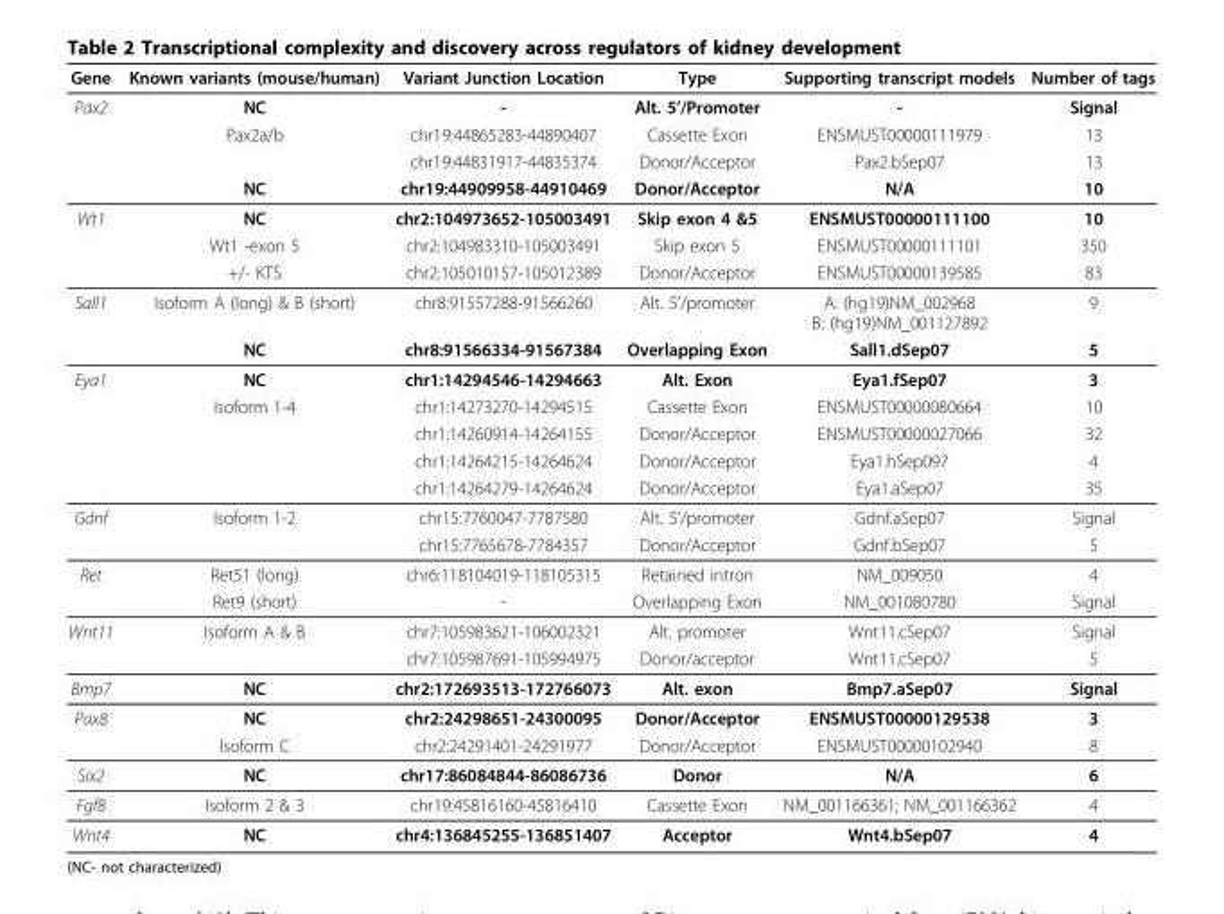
<table><thead><tr><td>Gene</td><td>Known variants (mouse/human)</td><td>Variant Junction Location</td><td>Type</td><td>Supporting transcript models</td><td>Number of tags</td></tr></thead><tbody><tr><td rowspan="4">Pax2</td><td>NC</td><td>-</td><td>Alt. 5’/Promoter</td><td>-</td><td>Signal</td></tr><tr><td>Pax2a/b</td><td>chr19:44865283-44890407</td><td>Cassette Exon</td><td>ENSMUST00000111979</td><td>13</td></tr><tr><td></td><td>chr19:44831917-44835374</td><td>Donor/Acceptor</td><td>Pax2.bSep07</td><td>13</td></tr><tr><td>NC</td><td>chr19:44909958-44910469</td><td>Donor/Acceptor</td><td>N/A</td><td>10</td></tr><tr><td rowspan="3">Wt1</td><td>NC</td><td>chr2:104973652-105003491</td><td>Skip exon 4 &amp;5</td><td>ENSMUST00000111100</td><td>10</td></tr><tr><td>Wt1 -exon 5</td><td>chr2:104983310-105003491</td><td>Skip exon 5</td><td>ENSMUST00000111101</td><td>350</td></tr><tr><td>+/- KTS</td><td>chr2:105010157-105012389</td><td>Donor/Acceptor</td><td>ENSMUST00000139585</td><td>83</td></tr><tr><td rowspan="2">Sall1</td><td>Isoform A (long) &amp; B (short)</td><td>chr8:91557288-91566260</td><td>Alt. 5’/promoter</td><td>A: (hg19)NM_002968 B: (hg19)NM_001127892</td><td>9</td></tr><tr><td>NC</td><td>chr8:91566334-91567384</td><td>Overlapping Exon</td><td>Sall1.dSep07</td><td>5</td></tr><tr><td rowspan="5">Eya1</td><td>NC</td><td>chr1:14294546-14294663</td><td>Alt. Exon</td><td>Eya1.fSep07</td><td>3</td></tr><tr><td>Isoform 1-4</td><td>chr1:14273270-14294515</td><td>Cassette Exon</td><td>ENSMUST00000080664</td><td>10</td></tr><tr><td></td><td>chr1:14260914-14264155</td><td>Donor/Acceptor</td><td>ENSMUST00000027066</td><td>32</td></tr><tr><td></td><td>chr1:14264215-14264624</td><td>Donor/Acceptor</td><td>Eya1.hSep097</td><td>4</td></tr><tr><td></td><td>chr1:14264279-14264624</td><td>Donor/Acceptor</td><td>Eya1.aSep07</td><td>35</td></tr><tr><td rowspan="2">Gdnf</td><td>Isoform 1-2</td><td>chr15:7760047-7787580</td><td>Alt. 5’/promoter</td><td>Gdnf.aSep07</td><td>Signal</td></tr><tr><td></td><td>chr15:7765678-7784357</td><td>Donor/Acceptor</td><td>Gdnf.bSep07</td><td>5</td></tr><tr><td rowspan="2">Ret</td><td>Ret51 (long)</td><td>chr6:118104019-118105315</td><td>Retained intron</td><td>NM_009050</td><td>4</td></tr><tr><td>Ret9 (short)</td><td>-</td><td>Overlapping Exon</td><td>NM_001080780</td><td>Signal</td></tr><tr><td rowspan="2">Wnt11</td><td>Isoform A &amp; B</td><td>chr7:105983621-106002321</td><td>Alt. promoter</td><td>Wnt11.cSep07</td><td>Signal</td></tr><tr><td></td><td>chr7:105987691-105994975</td><td>Donor/acceptor</td><td>Wnt11.cSep07</td><td>5</td></tr><tr><td>Bmp7</td><td>NC</td><td>chr2:172693513-172766073</td><td>Alt. exon</td><td>Bmp7.aSep07</td><td>Signal</td></tr><tr><td rowspan="2">Pax8</td><td>NC</td><td>chr2:24298651-24300095</td><td>Donor/Acceptor</td><td>ENSMUST00000129538</td><td>3</td></tr><tr><td>Isoform C</td><td>chr2:24291401-24291977</td><td>Donor/Acceptor</td><td>ENSMUST00000102940</td><td>8</td></tr><tr><td>Six2</td><td>NC</td><td>chr17:86084844-86086736</td><td>Donor</td><td>N/A</td><td>6</td></tr><tr><td>Fgf8</td><td>Isoform 2 &amp; 3</td><td>chr19:45816160-45816410</td><td>Cassette Exon</td><td>NM_001166361; NM_001166362</td><td>4</td></tr><tr><td>Wnt4</td><td>NC</td><td>chr4:136845255-136851407</td><td>Acceptor</td><td>Wnt4.bSep07</td><td>4</td></tr></tbody></table>